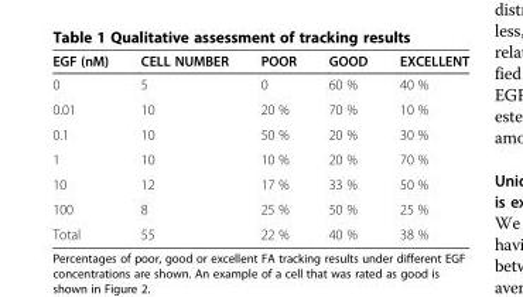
<table><thead><tr><td>EGF (nM)</td><td>CELL NUMBER</td><td>POOR</td><td>GOOD</td><td>EXCELLENT</td></tr></thead><tbody><tr><td>0</td><td>5</td><td>0</td><td>60 %</td><td>40 %</td></tr><tr><td>0.01</td><td>10</td><td>20 %</td><td>70 %</td><td>10 %</td></tr><tr><td>0.1</td><td>10</td><td>50 %</td><td>20 %</td><td>30 %</td></tr><tr><td>1</td><td>10</td><td>10 %</td><td>20 %</td><td>70 %</td></tr><tr><td>10</td><td>12</td><td>17 %</td><td>33 %</td><td>50 %</td></tr><tr><td>100</td><td>8</td><td>25 %</td><td>50 %</td><td>25 %</td></tr><tr><td>Total</td><td>55</td><td>22 %</td><td>40 %</td><td>38 %</td></tr></tbody></table>